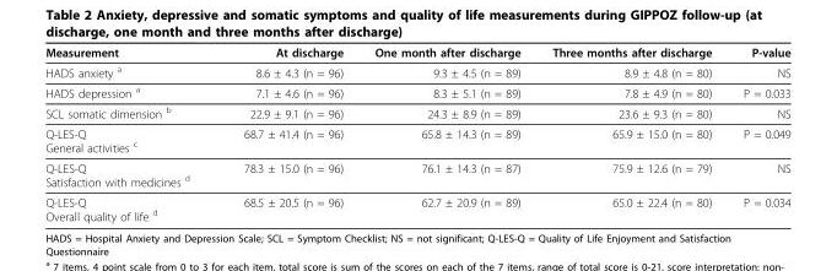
<table><thead><tr><td>Measurement</td><td>At discharge</td><td>One month after discharge</td><td>Three months after discharge</td><td>P-value</td></tr></thead><tbody><tr><td>HADS anxiety <sup>a</sup></td><td>8.6 ± 4.3 (n = 96)</td><td>9.3 ± 4.5 (n = 89)</td><td>8.9 ± 4.8 (n = 80)</td><td>NS</td></tr><tr><td>HADS depression <sup>a</sup></td><td>7.1 ± 4.6 (n = 96)</td><td>8.3 ± 5.1 (n = 89)</td><td>7.8 ± 4.9 (n = 80)</td><td>P = 0.033</td></tr><tr><td>SCL somatic dimension <sup>b</sup></td><td>22.9 ± 9.1 (n = 96)</td><td>24.3 ± 8.9 (n = 89)</td><td>23.6 ± 9.3 (n = 80)</td><td>NS</td></tr><tr><td>Q-LES-Q General activities <sup>c</sup></td><td>68.7 ± 41.4 (n = 96)</td><td>65.8 ± 14.3 (n = 89)</td><td>65.9 ± 15.0 (n = 80)</td><td>P = 0.049</td></tr><tr><td>Q-LES-Q Satisfaction with medicines <sup>d</sup></td><td>78.3 ± 15.0 (n = 96)</td><td>76.1 ± 14.3 (n = 87)</td><td>75.9 ± 12.6 (n = 79)</td><td>NS</td></tr><tr><td>Q-LES-Q Overall quality of life <sup>d</sup></td><td>68.5 ± 20.5 (n = 96)</td><td>62.7 ± 20.9 (n = 89)</td><td>65.0 ± 22.4 (n = 80)</td><td>P = 0.034</td></tr></tbody></table>